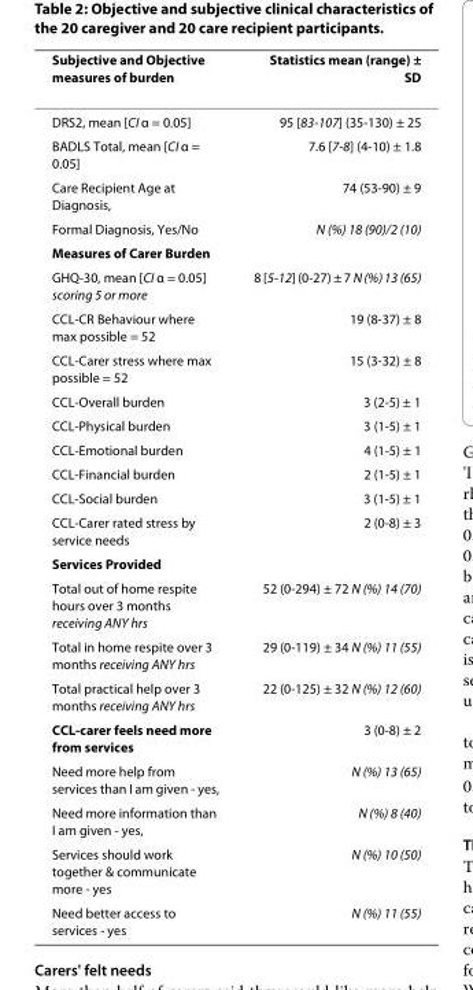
<table><thead><tr><td>Subjective and Objective measures of burden</td><td>Statistics mean (range) ± SD</td></tr></thead><tbody><tr><td>DRS2, mean [CI α = 0.05]</td><td>95 [83-107] (35-130) ± 25</td></tr><tr><td>BADLS Total, mean [CI α = 0.05]</td><td>7.6 [7-8] (4-10) ± 1.8</td></tr><tr><td>Care Recipient Age at Diagnosis,</td><td>74 (53-90) ± 9</td></tr><tr><td>Formal Diagnosis, Yes/No</td><td>N (%) 18 (90)/2 (10)</td></tr><tr><td colspan="2">Measures of Carer Burden</td></tr><tr><td>GHQ-30, mean [CI α = 0.05] scoring 5 or more</td><td>8 [5-12] (0-27) ± 7 N (%) 13 (65)</td></tr><tr><td>CCL-CR Behaviour where max possible = 52</td><td>19 (8-37) ± 8</td></tr><tr><td>CCL-Carer stress where max possible = 52</td><td>15 (3-32) ± 8</td></tr><tr><td>CCL-Overall burden</td><td>3 (2-5) ± 1</td></tr><tr><td>CCL-Physical burden</td><td>3 (1-5) ± 1</td></tr><tr><td>CCL-Emotional burden</td><td>4 (1-5) ± 1</td></tr><tr><td>CCL-Financial burden</td><td>2 (1-5) ± 1</td></tr><tr><td>CCL-Social burden</td><td>3 (1-5) ± 1</td></tr><tr><td>CCL-Carer rated stress by service needs</td><td>2 (0-8) ± 3</td></tr><tr><td colspan="2">Services Provided</td></tr><tr><td>Total out of home respite hours over 3 months receiving ANY hrs</td><td>52 (0-294) ± 72 N (%) 14 (70)</td></tr><tr><td>Total in home respite over 3 months receiving ANY hrs</td><td>29 (0-119) ± 34 N (%) 11 (55)</td></tr><tr><td>Total practical help over 3 months receiving ANY hrs</td><td>22 (0-125) ± 32 N (%) 12 (60)</td></tr><tr><td>CCL-carer feels need more from services</td><td>3 (0-8) ± 2</td></tr><tr><td>Need more help from services than I am given - yes,</td><td>N (%) 13 (65)</td></tr><tr><td>Need more information than I am given - yes,</td><td>N (%) 8 (40)</td></tr><tr><td>Services should work together &amp; communicate more - yes</td><td>N (%) 10 (50)</td></tr><tr><td>Need better access to services - yes</td><td>N (%) 11 (55)</td></tr></tbody></table>